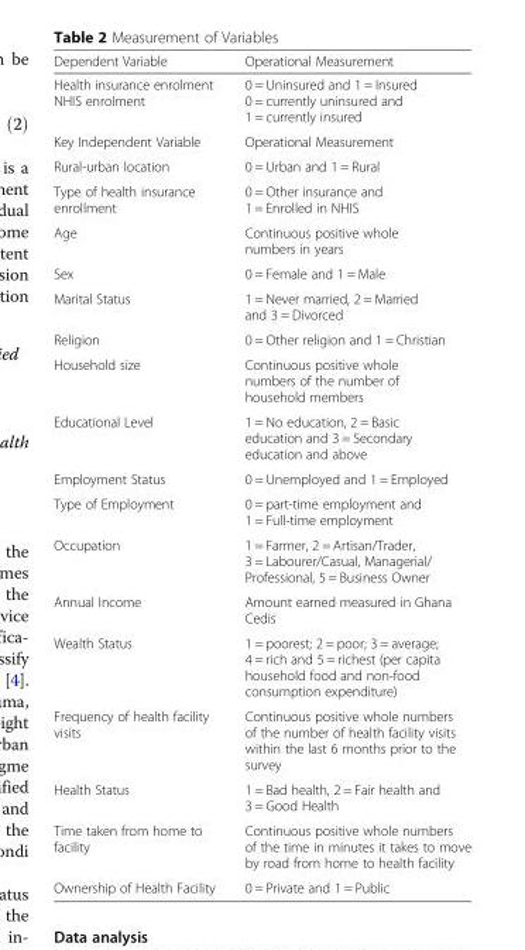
<table><thead><tr><td>Dependent Variable</td><td>Operational Measurement</td></tr></thead><tbody><tr><td>Health insurance enrolment NHIS enrolment</td><td>0 = Uninsured and 1 = Insured 0 = currently uninsured and 1 = currently insured</td></tr><tr><td>Key Independent Variable</td><td>Operational Measurement</td></tr><tr><td>Rural-urban location</td><td>0 = Urban and 1 = Rural</td></tr><tr><td>Type of health insurance enrollment</td><td>0 = Other insurance and 1 = Enrolled in NHIS</td></tr><tr><td>Age</td><td>Continuous positive whole numbers in years</td></tr><tr><td>Sex</td><td>0 = Female and 1 = Male</td></tr><tr><td>Marital Status</td><td>1 = Never married, 2 = Married and 3 = Divorced</td></tr><tr><td>Religion</td><td>0 = Other religion and 1 = Christian</td></tr><tr><td>Household size</td><td>Continuous positive whole numbers of the number of household members</td></tr><tr><td>Educational Level</td><td>1 = No education, 2 = Basic education and 3 = Secondary education and above</td></tr><tr><td>Employment Status</td><td>0 = Unemployed and 1 = Employed</td></tr><tr><td>Type of Employment</td><td>0 = part-time employment and 1 = Full-time employment</td></tr><tr><td>Occupation</td><td>1 = Farmer, 2 = Artisan/Trader, 3 = Labourer/Casual, Managerial/ Professional, 5 = Business Owner</td></tr><tr><td>Annual Income</td><td>Amount earned measured in Ghana Cedis</td></tr><tr><td>Wealth Status</td><td>1 = poorest; 2 = poor; 3 = average; 4 = rich and 5 = richest (per capita household food and non-food consumption expenditure)</td></tr><tr><td>Frequency of health facility visits</td><td>Continuous positive whole numbers of the number of health facility visits within the last 6 months prior to the survey</td></tr><tr><td>Health Status</td><td>1 = Bad health, 2 = Fair health and 3 = Good Health</td></tr><tr><td>Time taken from home to facility</td><td>Continuous positive whole numbers of the time in minutes it takes to move by road from home to health facility</td></tr><tr><td>Ownership of Health Facility</td><td>0 = Private and 1 = Public</td></tr></tbody></table>